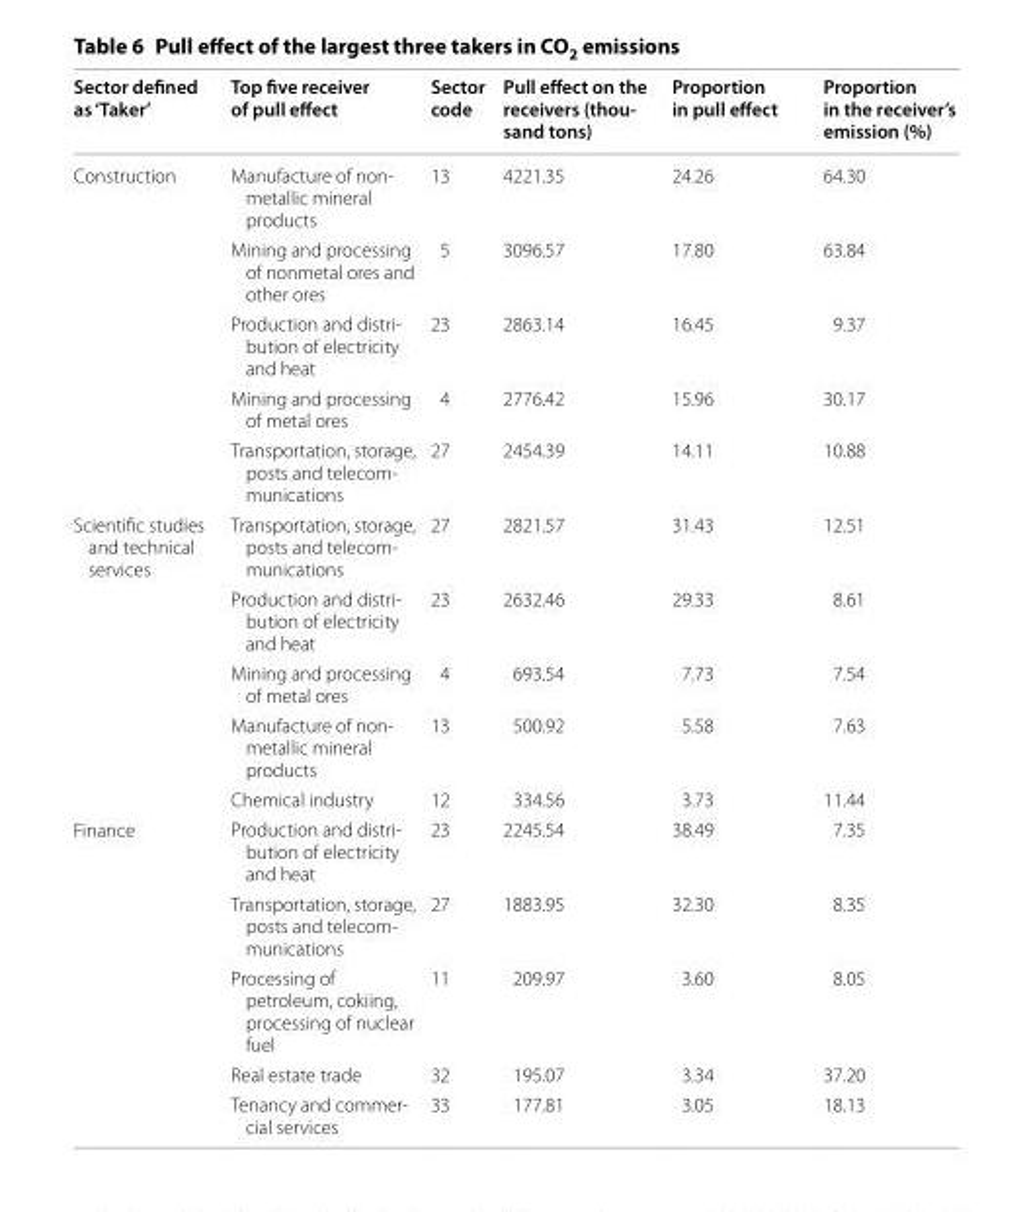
<table><thead><tr><td>Sector defined as ‘Taker’</td><td>Top five receiver of pull effect</td><td>Sector code</td><td>Pull effect on the receivers (thou- sand tons)</td><td>Proportion in pull effect</td><td>Proportion in the receiver’s emission (%)</td></tr></thead><tbody><tr><td rowspan="5">Construction</td><td>Manufacture of non- metallic mineral products</td><td>13</td><td>4221.35</td><td>24.26</td><td>64.30</td></tr><tr><td>Mining and processing of nonmetal ores and other ores</td><td>5</td><td>3096.57</td><td>17.80</td><td>63.84</td></tr><tr><td>Production and distri- bution of electricity and heat</td><td>23</td><td>2863.14</td><td>16.45</td><td>9.37</td></tr><tr><td>Mining and processing of metal ores</td><td>4</td><td>2776.42</td><td>15.96</td><td>30.17</td></tr><tr><td>Transportation, storage, posts and telecom- munications</td><td>27</td><td>2454.39</td><td>14.11</td><td>10.88</td></tr><tr><td rowspan="5">Scientific studies and technical services</td><td>Transportation, storage, posts and telecom- munications</td><td>27</td><td>2821.57</td><td>31.43</td><td>12.51</td></tr><tr><td>Production and distri- bution of electricity and heat</td><td>23</td><td>2632.46</td><td>29.33</td><td>8.61</td></tr><tr><td>Mining and processing of metal ores</td><td>4</td><td>693.54</td><td>7.73</td><td>7.54</td></tr><tr><td>Manufacture of non- metallic mineral products</td><td>13</td><td>500.92</td><td>5.58</td><td>7.63</td></tr><tr><td>Chemical industry</td><td>12</td><td>334.56</td><td>3.73</td><td>11.44</td></tr><tr><td rowspan="5">Finance</td><td>Production and distri- bution of electricity and heat</td><td>23</td><td>2245.54</td><td>38.49</td><td>7.35</td></tr><tr><td>Transportation, storage, posts and telecom- munications</td><td>27</td><td>1883.95</td><td>32.30</td><td>8.35</td></tr><tr><td>Processing of petroleum, cokiing, processing of nuclear fuel</td><td>11</td><td>209.97</td><td>3.60</td><td>8.05</td></tr><tr><td>Real estate trade</td><td>32</td><td>195.07</td><td>3.34</td><td>37.20</td></tr><tr><td>Tenancy and commer- cial services</td><td>33</td><td>177.81</td><td>3.05</td><td>18.13</td></tr></tbody></table>